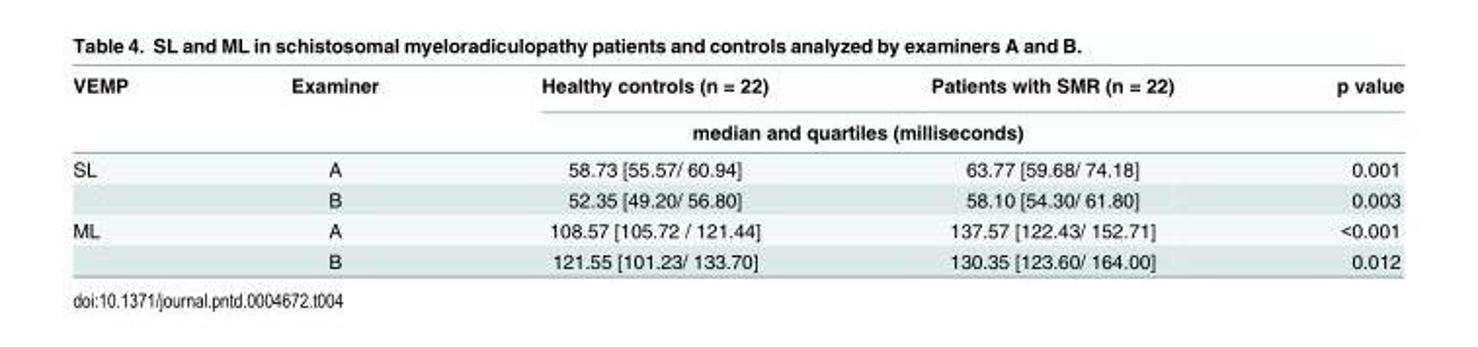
<table><thead><tr><td rowspan="2">VEMP</td><td rowspan="2">Examiner</td><td>Healthy controls (n = 22)</td><td>Patients with SMR (n = 22)</td><td rowspan="2">p value</td></tr><tr><td colspan="2">median and quartiles (milliseconds)</td></tr></thead><tbody><tr><td rowspan="2">SL</td><td>A</td><td>58.73 [55.57/ 60.94]</td><td>63.77 [59.68/ 74.18]</td><td>0.001</td></tr><tr><td>B</td><td>52.35 [49.20/ 56.80]</td><td>58.10 [54.30/ 61.80]</td><td>0.003</td></tr><tr><td rowspan="2">ML</td><td>A</td><td>108.57 [105.72 / 121.44]</td><td>137.57 [122.43/ 152.71]</td><td>&lt;0.001</td></tr><tr><td>B</td><td>121.55 [101.23/ 133.70]</td><td>130.35 [123.60/ 164.00]</td><td>0.012</td></tr></tbody></table>